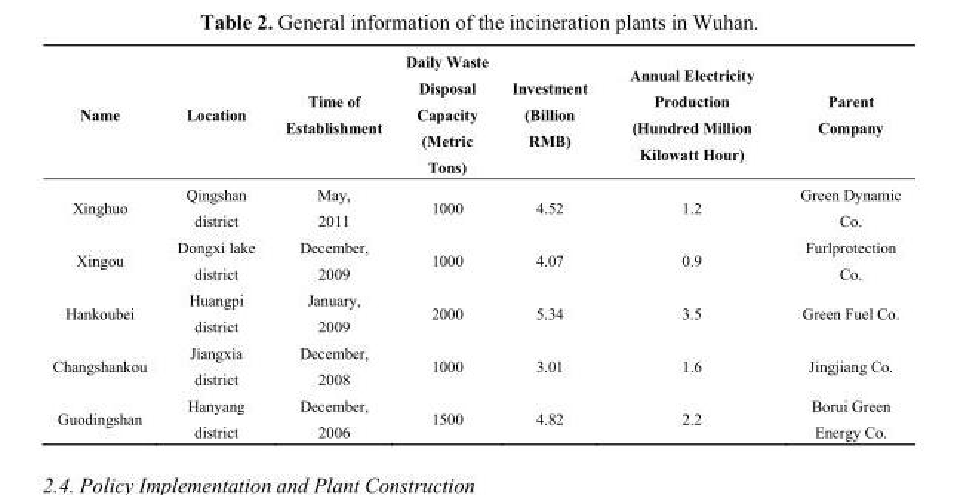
<table><thead><tr><td>Name</td><td>Location</td><td>Time of Establishment</td><td>Daily Waste Disposal Capacity (Metric Tons)</td><td>Investment (Billion RMB)</td><td>Annual Electricity Production (Hundred Million Kilowatt Hour)</td><td>Parent Company</td></tr></thead><tbody><tr><td>Xinghuo</td><td>Qingshan district</td><td>May, 2011</td><td>1000</td><td>4.52</td><td>1.2</td><td>Green Dynamic Co.</td></tr><tr><td>Xingou</td><td>Dongxi lake district</td><td>December, 2009</td><td>1000</td><td>4.07</td><td>0.9</td><td>Furlprotection Co.</td></tr><tr><td>Hankoubei</td><td>Huangpi district</td><td>January, 2009</td><td>2000</td><td>5.34</td><td>3.5</td><td>Green Fuel Co.</td></tr><tr><td>Changshankou</td><td>Jiangxia district</td><td>December, 2008</td><td>1000</td><td>3.01</td><td>1.6</td><td>Jingjiang Co.</td></tr><tr><td>Guodingshan</td><td>Hanyang district</td><td>December, 2006</td><td>1500</td><td>4.82</td><td>2.2</td><td>Borui Green Energy Co.</td></tr></tbody></table>